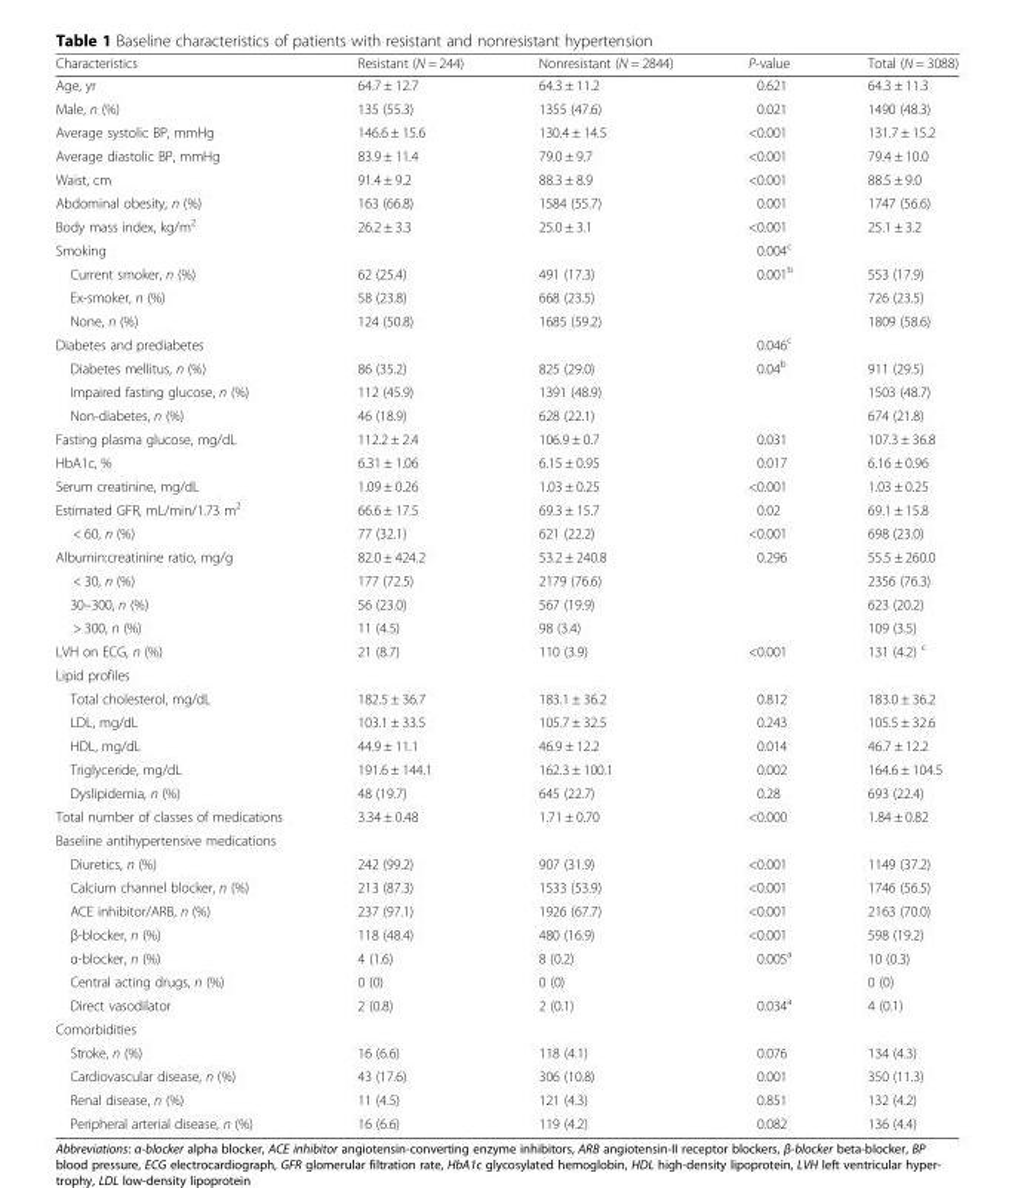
<table><thead><tr><td>Characteristics</td><td>Resistant (N = 244)</td><td>Nonresistant (N = 2844)</td><td>P-value</td><td>Total (N = 3088)</td></tr></thead><tbody><tr><td>Age, yr</td><td>64.7 ± 12.7</td><td>64.3 ± 11.2</td><td>0.621</td><td>64.3 ± 11.3</td></tr><tr><td>Male, n (%)</td><td>135 (55.3)</td><td>1355 (47.6)</td><td>0.021</td><td>1490 (48.3)</td></tr><tr><td>Average systolic BP, mmHg</td><td>146.6 ± 15.6</td><td>130.4 ± 14.5</td><td>&lt;0.001</td><td>131.7 ± 15.2</td></tr><tr><td>Average diastolic BP, mmHg</td><td>83.9 ± 11.4</td><td>79.0 ± 9.7</td><td>&lt;0.001</td><td>79.4 ± 10.0</td></tr><tr><td>Waist, cm</td><td>91.4 ± 9.2</td><td>88.3 ± 8.9</td><td>&lt;0.001</td><td>88.5 ± 9.0</td></tr><tr><td>Abdominal obesity, n (%)</td><td>163 (66.8)</td><td>1584 (55.7)</td><td>0.001</td><td>1747 (56.6)</td></tr><tr><td>Body mass index, kg/m<sup>2</sup></td><td>26.2 ± 3.3</td><td>25.0 ± 3.1</td><td>&lt;0.001</td><td>25.1 ± 3.2</td></tr><tr><td>Smoking</td><td></td><td></td><td>0.004<sup>c</sup></td><td></td></tr><tr><td>Current smoker, n (%)</td><td>62 (25.4)</td><td>491 (17.3)</td><td>0.001<sup>b</sup></td><td>553 (17.9)</td></tr><tr><td>Ex-smoker, n (%)</td><td>58 (23.8)</td><td>668 (23.5)</td><td></td><td>726 (23.5)</td></tr><tr><td>None, n (%)</td><td>124 (50.8)</td><td>1685 (59.2)</td><td></td><td>1809 (58.6)</td></tr><tr><td>Diabetes and prediabetes</td><td></td><td></td><td>0.046<sup>c</sup></td><td></td></tr><tr><td>Diabetes mellitus, n (%)</td><td>86 (35.2)</td><td>825 (29.0)</td><td>0.04<sup>b</sup></td><td>911 (29.5)</td></tr><tr><td>Impaired fasting glucose, n (%)</td><td>112 (45.9)</td><td>1391 (48.9)</td><td></td><td>1503 (48.7)</td></tr><tr><td>Non-diabetes, n (%)</td><td>46 (18.9)</td><td>628 (22.1)</td><td></td><td>674 (21.8)</td></tr><tr><td>Fasting plasma glucose, mg/dL</td><td>112.2 ± 2.4</td><td>106.9 ± 0.7</td><td>0.031</td><td>107.3 ± 36.8</td></tr><tr><td>HbA1c, %</td><td>6.31 ± 1.06</td><td>6.15 ± 0.95</td><td>0.017</td><td>6.16 ± 0.96</td></tr><tr><td>Serum creatinine, mg/dL</td><td>1.09 ± 0.26</td><td>1.03 ± 0.25</td><td>&lt;0.001</td><td>1.03 ± 0.25</td></tr><tr><td>Estimated GFR, mL/min/1.73 m<sup>2</sup></td><td>66.6 ± 17.5</td><td>69.3 ± 15.7</td><td>0.02</td><td>69.1 ± 15.8</td></tr><tr><td>&lt; 60, n (%)</td><td>77 (32.1)</td><td>621 (22.2)</td><td>&lt;0.001</td><td>698 (23.0)</td></tr><tr><td>Albumin:creatinine ratio, mg/g</td><td>82.0 ± 424.2</td><td>53.2 ± 240.8</td><td>0.296</td><td>55.5 ± 260.0</td></tr><tr><td>&lt; 30, n (%)</td><td>177 (72.5)</td><td>2179 (76.6)</td><td></td><td>2356 (76.3)</td></tr><tr><td>30–300, n (%)</td><td>56 (23.0)</td><td>567 (19.9)</td><td></td><td>623 (20.2)</td></tr><tr><td>&gt; 300, n (%)</td><td>11 (4.5)</td><td>98 (3.4)</td><td></td><td>109 (3.5)</td></tr><tr><td>LVH on ECG, n (%)</td><td>21 (8.7)</td><td>110 (3.9)</td><td>&lt;0.001</td><td>131 (4.2) <sup>c</sup></td></tr><tr><td colspan="5">Lipid profiles</td></tr><tr><td>Total cholesterol, mg/dL</td><td>182.5 ± 36.7</td><td>183.1 ± 36.2</td><td>0.812</td><td>183.0 ± 36.2</td></tr><tr><td>LDL, mg/dL</td><td>103.1 ± 33.5</td><td>105.7 ± 32.5</td><td>0.243</td><td>105.5 ± 32.6</td></tr><tr><td>HDL, mg/dL</td><td>44.9 ± 11.1</td><td>46.9 ± 12.2</td><td>0.014</td><td>46.7 ± 12.2</td></tr><tr><td>Triglyceride, mg/dL</td><td>191.6 ± 144.1</td><td>162.3 ± 100.1</td><td>0.002</td><td>164.6 ± 104.5</td></tr><tr><td>Dyslipidemia, n (%)</td><td>48 (19.7)</td><td>645 (22.7)</td><td>0.28</td><td>693 (22.4)</td></tr><tr><td>Total number of classes of medications</td><td>3.34 ± 0.48</td><td>1.71 ± 0.70</td><td>&lt;0.000</td><td>1.84 ± 0.82</td></tr><tr><td colspan="5">Baseline antihypertensive medications</td></tr><tr><td>Diuretics, n (%)</td><td>242 (99.2)</td><td>907 (31.9)</td><td>&lt;0.001</td><td>1149 (37.2)</td></tr><tr><td>Calcium channel blocker, n (%)</td><td>213 (87.3)</td><td>1533 (53.9)</td><td>&lt;0.001</td><td>1746 (56.5)</td></tr><tr><td>ACE inhibitor/ARB, n (%)</td><td>237 (97.1)</td><td>1926 (67.7)</td><td>&lt;0.001</td><td>2163 (70.0)</td></tr><tr><td>β-blocker, n (%)</td><td>118 (48.4)</td><td>480 (16.9)</td><td>&lt;0.001</td><td>598 (19.2)</td></tr><tr><td>α-blocker, n (%)</td><td>4 (1.6)</td><td>8 (0.2)</td><td>0.005<sup>a</sup></td><td>10 (0.3)</td></tr><tr><td>Central acting drugs, n (%)</td><td>0 (0)</td><td>0 (0)</td><td></td><td>0 (0)</td></tr><tr><td>Direct vasodilator</td><td>2 (0.8)</td><td>2 (0.1)</td><td>0.034<sup>a</sup></td><td>4 (0.1)</td></tr><tr><td colspan="5">Comorbidities</td></tr><tr><td>Stroke, n (%)</td><td>16 (6.6)</td><td>118 (4.1)</td><td>0.076</td><td>134 (4.3)</td></tr><tr><td>Cardiovascular disease, n (%)</td><td>43 (17.6)</td><td>306 (10.8)</td><td>0.001</td><td>350 (11.3)</td></tr><tr><td>Renal disease, n (%)</td><td>11 (4.5)</td><td>121 (4.3)</td><td>0.851</td><td>132 (4.2)</td></tr><tr><td>Peripheral arterial disease, n (%)</td><td>16 (6.6)</td><td>119 (4.2)</td><td>0.082</td><td>136 (4.4)</td></tr></tbody></table>